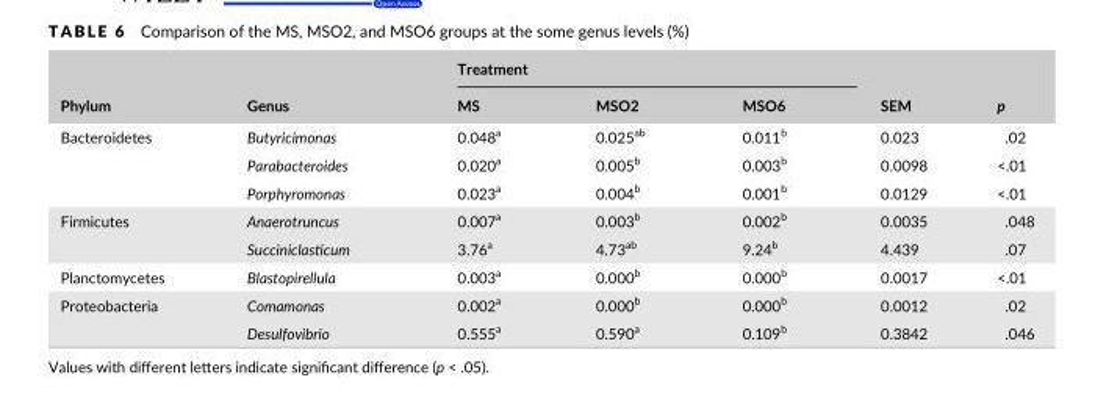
<table><thead><tr><td rowspan="2">Phylum</td><td rowspan="2">Genus</td><td colspan="3">Treatment</td><td rowspan="2">SEM</td><td rowspan="2">p</td></tr><tr><td>MS</td><td>MSO2</td><td>MSO6</td></tr></thead><tbody><tr><td rowspan="3">Bacteroidetes</td><td>Butyricimonas</td><td>0.048<sup>a</sup></td><td>0.025<sup>ab</sup></td><td>0.011<sup>b</sup></td><td>0.023</td><td>.02</td></tr><tr><td>Parabacteroides</td><td>0.020<sup>a</sup></td><td>0.005<sup>b</sup></td><td>0.003<sup>b</sup></td><td>0.0098</td><td>&lt;.01</td></tr><tr><td>Porphyromonas</td><td>0.023<sup>a</sup></td><td>0.004<sup>b</sup></td><td>0.001<sup>b</sup></td><td>0.0129</td><td>&lt;.01</td></tr><tr><td rowspan="2">Firmicutes</td><td>Anaerotruncus</td><td>0.007<sup>a</sup></td><td>0.003<sup>b</sup></td><td>0.002<sup>b</sup></td><td>0.0035</td><td>.048</td></tr><tr><td>Succiniclasticum</td><td>3.76<sup>a</sup></td><td>4.73<sup>ab</sup></td><td>9.24<sup>b</sup></td><td>4.439</td><td>.07</td></tr><tr><td>Planctomycetes</td><td>Blastopirellula</td><td>0.003<sup>a</sup></td><td>0.000<sup>b</sup></td><td>0.000<sup>b</sup></td><td>0.0017</td><td>&lt;.01</td></tr><tr><td rowspan="2">Proteobacteria</td><td>Comamonas</td><td>0.002<sup>a</sup></td><td>0.000<sup>b</sup></td><td>0.000<sup>b</sup></td><td>0.0012</td><td>.02</td></tr><tr><td>Desulfovibrio</td><td>0.555<sup>a</sup></td><td>0.590<sup>a</sup></td><td>0.109<sup>b</sup></td><td>0.3842</td><td>.046</td></tr></tbody></table>